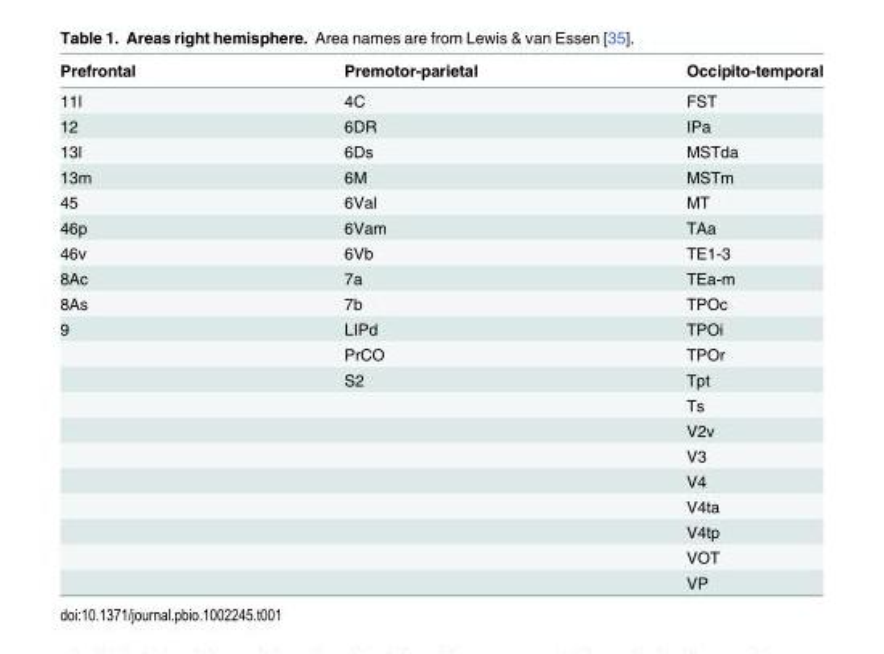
<table><thead><tr><td>Prefrontal</td><td>Premotor-parietal</td><td>Occipito-temporal</td></tr></thead><tbody><tr><td>11l</td><td>4C</td><td>FST</td></tr><tr><td>12</td><td>6DR</td><td>IPa</td></tr><tr><td>13l</td><td>6Ds</td><td>MSTda</td></tr><tr><td>13m</td><td>6M</td><td>MSTm</td></tr><tr><td>45</td><td>6Val</td><td>MT</td></tr><tr><td>46p</td><td>6Vam</td><td>TAa</td></tr><tr><td>46v</td><td>6Vb</td><td>TE1-3</td></tr><tr><td>8Ac</td><td>7a</td><td>TEa-m</td></tr><tr><td>8As</td><td>7b</td><td>TPOc</td></tr><tr><td rowspan="11">9</td><td>LIPd</td><td>TPOi</td></tr><tr><td>PrCO</td><td>TPOr</td></tr><tr><td>S2</td><td>Tpt</td></tr><tr><td></td><td>Ts</td></tr><tr><td></td><td>V2v</td></tr><tr><td></td><td>V3</td></tr><tr><td></td><td>V4</td></tr><tr><td></td><td>V4ta</td></tr><tr><td></td><td>V4tp</td></tr><tr><td></td><td>VOT</td></tr><tr><td></td><td>VP</td></tr></tbody></table>